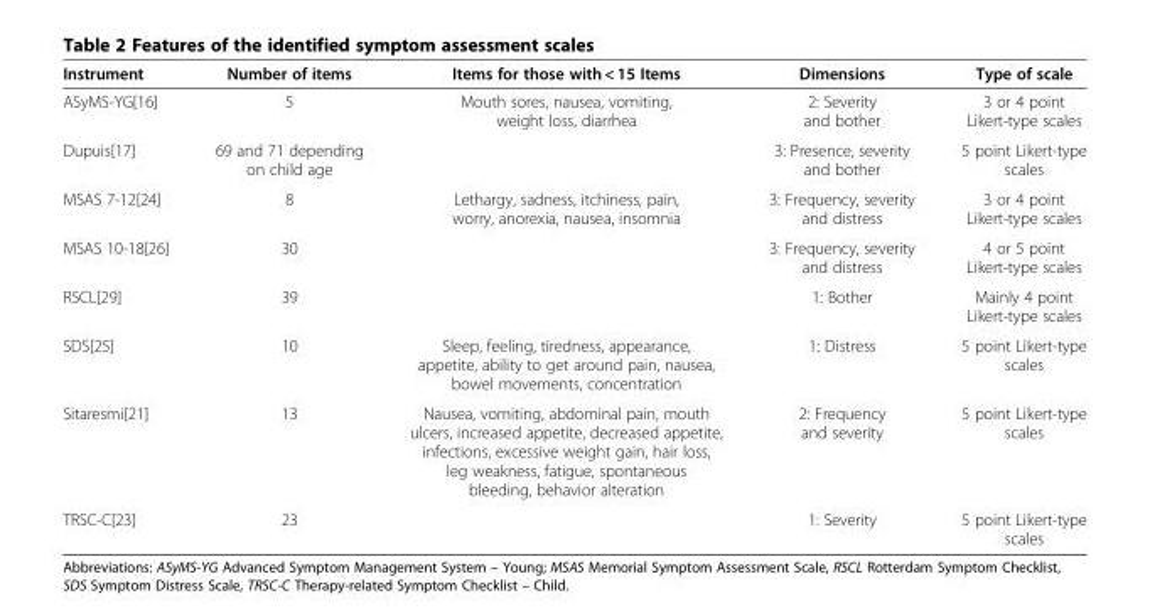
<table><thead><tr><td>Instrument</td><td>Number of items</td><td>Items for those with &lt; 15 Items</td><td>Dimensions</td><td>Type of scale</td></tr></thead><tbody><tr><td>ASyMS-YG[16]</td><td>5</td><td>Mouth sores, nausea, vomiting, weight loss, diarrhea</td><td>2: Severity and bother</td><td>3 or 4 point Likert-type scales</td></tr><tr><td>Dupuis[17]</td><td>69 and 71 depending on child age</td><td></td><td>3: Presence, severity and bother</td><td>5 point Likert-type scales</td></tr><tr><td>MSAS 7-12[24]</td><td>8</td><td>Lethargy, sadness, itchiness, pain, worry, anorexia, nausea, insomnia</td><td>3: Frequency, severity and distress</td><td>3 or 4 point Likert-type scales</td></tr><tr><td>MSAS 10-18[26]</td><td>30</td><td></td><td>3: Frequency, severity and distress</td><td>4 or 5 point Likert-type scales</td></tr><tr><td>RSCL[29]</td><td>39</td><td></td><td>1: Bother</td><td>Mainly 4 point Likert-type scales</td></tr><tr><td>SDS[25]</td><td>10</td><td>Sleep, feeling, tiredness, appearance, appetite, ability to get around pain, nausea, bowel movements, concentration</td><td>1: Distress</td><td>5 point Likert-type scales</td></tr><tr><td>Sitaresmi[21]</td><td>13</td><td>Nausea, vomiting, abdominal pain, mouth ulcers, increased appetite, decreased appetite, infections, excessive weight gain, hair loss, leg weakness, fatigue, spontaneous bleeding, behavior alteration</td><td>2: Frequency and severity</td><td>5 point Likert-type scales</td></tr><tr><td>TRSC-C[23]</td><td>23</td><td></td><td>1: Severity</td><td>5 point Likert-type scales</td></tr></tbody></table>